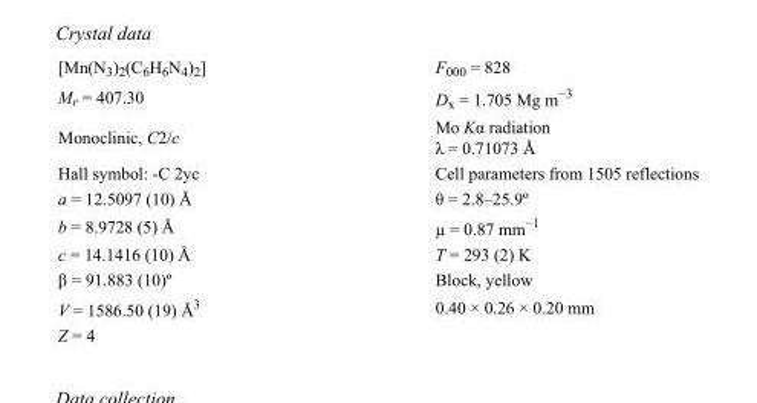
<table><tbody><tr><td>[Mn(N3)2(C6H6N4)2]</td><td>F000 = 828</td></tr><tr><td>Mr = 407.30</td><td>Dx = 1.705 Mg m−3</td></tr><tr><td>Monoclinic, C2/c</td><td>Mo Kα radiation λ = 0.71073 Å</td></tr><tr><td>Hall symbol: -C 2yc</td><td>Cell parameters from 1505 reflections</td></tr><tr><td>a = 12.5097 (10) Å</td><td>θ = 2.8–25.9º</td></tr><tr><td>b = 8.9728 (5) Å</td><td>µ = 0.87 mm−1</td></tr><tr><td>c = 14.1416 (10) Å</td><td>T = 293 (2) K</td></tr><tr><td>β = 91.883 (10)º</td><td>Block, yellow</td></tr><tr><td>V = 1586.50 (19) Å3</td><td>0.40 × 0.26 × 0.20 mm</td></tr><tr><td>Z = 4</td><td></td></tr></tbody></table>